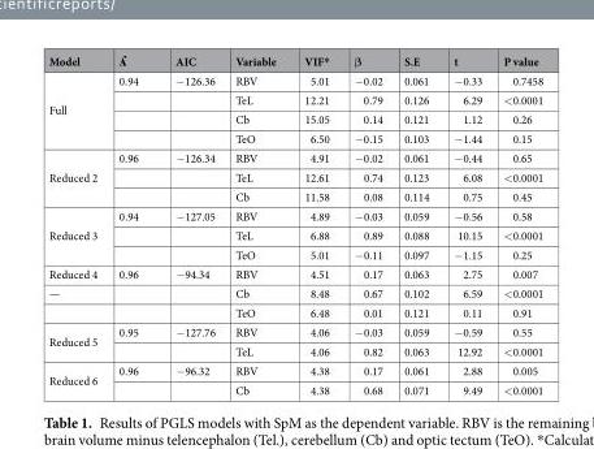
<table><thead><tr><td>Model</td><td>ʎ</td><td>AIC</td><td>Variable</td><td>VIF*</td><td>β</td><td>S.E</td><td>t</td><td>P value</td></tr></thead><tbody><tr><td rowspan="4">Full</td><td>0.94</td><td>−126.36</td><td>RBV</td><td>5.01</td><td>−0.02</td><td>0.061</td><td>−0.33</td><td>0.7458</td></tr><tr><td></td><td></td><td>TeL</td><td>12.21</td><td>0.79</td><td>0.126</td><td>6.29</td><td>&lt;0.0001</td></tr><tr><td></td><td></td><td>Cb</td><td>15.05</td><td>0.14</td><td>0.121</td><td>1.12</td><td>0.26</td></tr><tr><td></td><td></td><td>TeO</td><td>6.50</td><td>−0.15</td><td>0.103</td><td>−1.44</td><td>0.15</td></tr><tr><td rowspan="3">Reduced 2</td><td>0.96</td><td>−126.34</td><td>RBV</td><td>4.91</td><td>−0.02</td><td>0.061</td><td>−0.44</td><td>0.65</td></tr><tr><td></td><td></td><td>TeL</td><td>12.61</td><td>0.74</td><td>0.123</td><td>6.08</td><td>&lt;0.0001</td></tr><tr><td></td><td></td><td>Cb</td><td>11.58</td><td>0.08</td><td>0.114</td><td>0.75</td><td>0.45</td></tr><tr><td rowspan="3">Reduced 3</td><td>0.94</td><td>−127.05</td><td>RBV</td><td>4.89</td><td>−0.03</td><td>0.059</td><td>−0.56</td><td>0.58</td></tr><tr><td></td><td></td><td>TeL</td><td>6.88</td><td>0.89</td><td>0.088</td><td>10.15</td><td>&lt;0.0001</td></tr><tr><td></td><td></td><td>TeO</td><td>5.01</td><td>−0.11</td><td>0.097</td><td>−1.15</td><td>0.25</td></tr><tr><td>Reduced 4</td><td>0.96</td><td>−94.34</td><td>RBV</td><td>4.51</td><td>0.17</td><td>0.063</td><td>2.75</td><td>0.007</td></tr><tr><td rowspan="2">—</td><td></td><td></td><td>Cb</td><td>8.48</td><td>0.67</td><td>0.102</td><td>6.59</td><td>&lt;0.0001</td></tr><tr><td></td><td></td><td>TeO</td><td>6.48</td><td>0.01</td><td>0.121</td><td>0.11</td><td>0.91</td></tr><tr><td rowspan="2">Reduced 5</td><td>0.95</td><td>−127.76</td><td>RBV</td><td>4.06</td><td>−0.03</td><td>0.059</td><td>−0.59</td><td>0.55</td></tr><tr><td></td><td></td><td>TeL</td><td>4.06</td><td>0.82</td><td>0.063</td><td>12.92</td><td>&lt;0.0001</td></tr><tr><td rowspan="2">Reduced 6</td><td>0.96</td><td>−96.32</td><td>RBV</td><td>4.38</td><td>0.17</td><td>0.061</td><td>2.88</td><td>0.005</td></tr><tr><td></td><td></td><td>Cb</td><td>4.38</td><td>0.68</td><td>0.071</td><td>9.49</td><td>&lt;0.0001</td></tr></tbody></table>